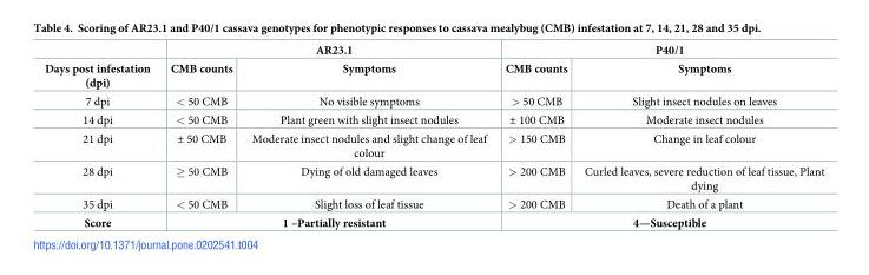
<table><thead><tr><td rowspan="2">Days post infestation (dpi)</td><td colspan="2">AR23.1</td><td colspan="2">P40/1</td></tr><tr><td>CMB counts</td><td>Symptoms</td><td>CMB counts</td><td>Symptoms</td></tr></thead><tbody><tr><td>7 dpi</td><td>&lt; 50 CMB</td><td>No visible symptoms</td><td>&gt; 50 CMB</td><td>Slight insect nodules on leaves</td></tr><tr><td>14 dpi</td><td>&lt; 50 CMB</td><td>Plant green with slight insect nodules</td><td>± 100 CMB</td><td>Moderate insect nodules</td></tr><tr><td>21 dpi</td><td>± 50 CMB</td><td>Moderate insect nodules and slight change of leaf colour</td><td>&gt; 150 CMB</td><td>Change in leaf colour</td></tr><tr><td>28 dpi</td><td>≥ 50 CMB</td><td>Dying of old damaged leaves</td><td>&gt; 200 CMB</td><td>Curled leaves, severe reduction of leaf tissue, Plant dying</td></tr><tr><td>35 dpi</td><td>&lt; 50 CMB</td><td>Slight loss of leaf tissue</td><td>&gt; 200 CMB</td><td>Death of a plant</td></tr><tr><td>Score</td><td colspan="2">1 –Partially resistant</td><td colspan="2">4—Susceptible</td></tr></tbody></table>